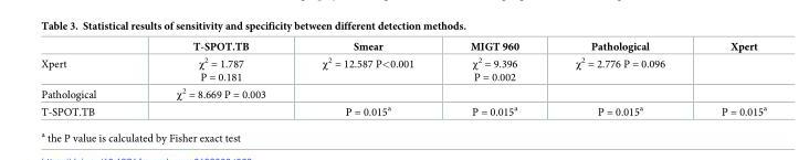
<table><thead><tr><td></td><td>T-SPOT.TB</td><td>Smear</td><td>MIGT 960</td><td>Pathological</td><td>Xpert</td></tr></thead><tbody><tr><td>Xpert</td><td>χ<sup>2</sup> = 1.787 P = 0.181</td><td>χ<sup>2</sup> = 12.587 P&lt;0.001</td><td>χ<sup>2</sup> = 9.396 P = 0.002</td><td>χ<sup>2</sup> = 2.776 P = 0.096</td><td></td></tr><tr><td>Pathological</td><td>χ<sup>2</sup> = 8.669 P = 0.003</td><td></td><td></td><td></td><td></td></tr><tr><td>T-SPOT.TB</td><td></td><td>P = 0.015<sup>a</sup></td><td>P = 0.015<sup>a</sup></td><td>P = 0.015<sup>a</sup></td><td>P = 0.015<sup>a</sup></td></tr></tbody></table>